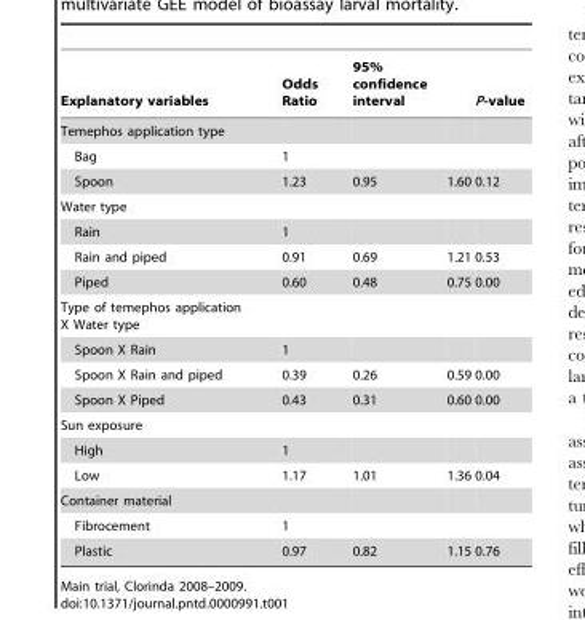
<table><thead><tr><td>Explanatory variables</td><td>Odds Ratio</td><td colspan="2">95% confidence interval</td><td rowspan="2">P-value</td></tr><tr><td colspan="2">Temephos application type</td><td></td><td></td></tr></thead><tbody><tr><td>Bag</td><td>1</td><td></td><td></td><td></td></tr><tr><td>Spoon</td><td>1.23</td><td>0.95</td><td>1.60</td><td>0.12</td></tr><tr><td colspan="5">Water type</td></tr><tr><td>Rain</td><td>1</td><td></td><td></td><td></td></tr><tr><td>Rain and piped</td><td>0.91</td><td>0.69</td><td>1.21</td><td>0.53</td></tr><tr><td>Piped</td><td>0.60</td><td>0.48</td><td>0.75</td><td>0.00</td></tr><tr><td colspan="5">Type of temephos application X Water type</td></tr><tr><td>Spoon X Rain</td><td>1</td><td></td><td></td><td></td></tr><tr><td>Spoon X Rain and piped</td><td>0.39</td><td>0.26</td><td>0.59</td><td>0.00</td></tr><tr><td>Spoon X Piped</td><td>0.43</td><td>0.31</td><td>0.60</td><td>0.00</td></tr><tr><td colspan="5">Sun exposure</td></tr><tr><td>High</td><td>1</td><td></td><td></td><td></td></tr><tr><td>Low</td><td>1.17</td><td>1.01</td><td>1.36</td><td>0.04</td></tr><tr><td colspan="5">Container material</td></tr><tr><td>Fibrocement</td><td>1</td><td></td><td></td><td></td></tr><tr><td>Plastic</td><td>0.97</td><td>0.82</td><td>1.15</td><td>0.76</td></tr></tbody></table>